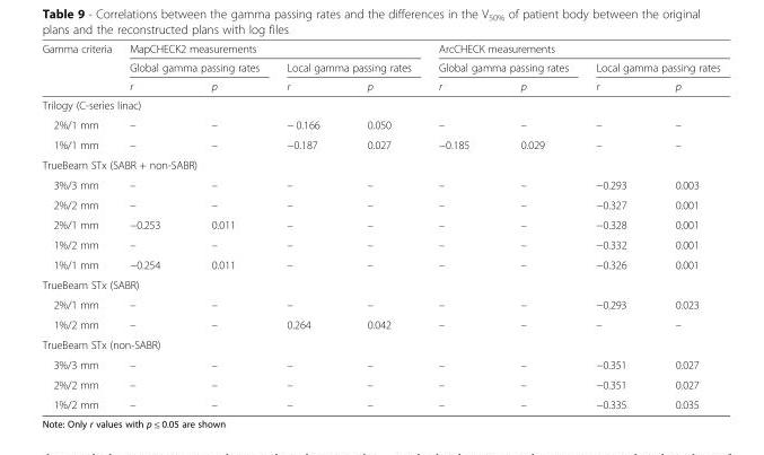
<table><thead><tr><td rowspan="3">Gamma criteria</td><td colspan="4">MapCHECK2 measurements</td><td colspan="4">ArcCHECK measurements</td></tr><tr><td colspan="2">Global gamma passing rates</td><td colspan="2">Local gamma passing rates</td><td colspan="2">Global gamma passing rates</td><td colspan="2">Local gamma passing rates</td></tr><tr><td>r</td><td>p</td><td>r</td><td>p</td><td>r</td><td>p</td><td>r</td><td>p</td></tr></thead><tbody><tr><td colspan="9">Trilogy (C-series linac)</td></tr><tr><td>2%/1 mm</td><td>–</td><td>–</td><td>− 0.166</td><td>0.050</td><td>–</td><td>–</td><td>–</td><td>–</td></tr><tr><td>1%/1 mm</td><td>–</td><td>–</td><td>−0.187</td><td>0.027</td><td>−0.185</td><td>0.029</td><td>–</td><td>–</td></tr><tr><td colspan="9">TrueBeam STx (SABR + non-SABR)</td></tr><tr><td>3%/3 mm</td><td>–</td><td>–</td><td>–</td><td>–</td><td>–</td><td>–</td><td>−0.293</td><td>0.003</td></tr><tr><td>2%/2 mm</td><td>–</td><td>–</td><td>–</td><td>–</td><td>–</td><td>–</td><td>−0.327</td><td>0.001</td></tr><tr><td>2%/1 mm</td><td>−0.253</td><td>0.011</td><td>–</td><td>–</td><td>–</td><td>–</td><td>−0.328</td><td>0.001</td></tr><tr><td>1%/2 mm</td><td>–</td><td>–</td><td>–</td><td>–</td><td>–</td><td>–</td><td>−0.332</td><td>0.001</td></tr><tr><td>1%/1 mm</td><td>−0.254</td><td>0.011</td><td>–</td><td>–</td><td>–</td><td>–</td><td>−0.326</td><td>0.001</td></tr><tr><td colspan="9">TrueBeam STx (SABR)</td></tr><tr><td>2%/1 mm</td><td>–</td><td>–</td><td>–</td><td>–</td><td>–</td><td>–</td><td>−0.293</td><td>0.023</td></tr><tr><td>1%/2 mm</td><td>–</td><td>–</td><td>0.264</td><td>0.042</td><td>–</td><td>–</td><td>–</td><td>–</td></tr><tr><td colspan="9">TrueBeam STx (non-SABR)</td></tr><tr><td>3%/3 mm</td><td>–</td><td>–</td><td>–</td><td>–</td><td>–</td><td>–</td><td>−0.351</td><td>0.027</td></tr><tr><td>2%/2 mm</td><td>–</td><td>–</td><td>–</td><td>–</td><td>–</td><td>–</td><td>−0.351</td><td>0.027</td></tr><tr><td>1%/2 mm</td><td>–</td><td>–</td><td>–</td><td>–</td><td>–</td><td>–</td><td>−0.335</td><td>0.035</td></tr></tbody></table>